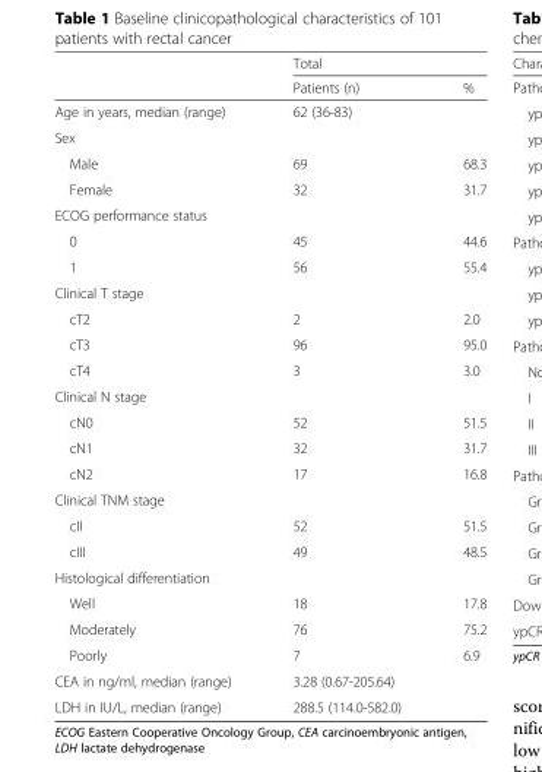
<table><thead><tr><td rowspan="2"></td><td colspan="2">Total</td></tr><tr><td>Patients (n)</td><td>%</td></tr></thead><tbody><tr><td>Age in years, median (range)</td><td>62 (36-83)</td><td></td></tr><tr><td colspan="3">Sex</td></tr><tr><td>Male</td><td>69</td><td>68.3</td></tr><tr><td>Female</td><td>32</td><td>31.7</td></tr><tr><td colspan="3">ECOG performance status</td></tr><tr><td>0</td><td>45</td><td>44.6</td></tr><tr><td>1</td><td>56</td><td>55.4</td></tr><tr><td colspan="3">Clinical T stage</td></tr><tr><td>cT2</td><td>2</td><td>2.0</td></tr><tr><td>cT3</td><td>96</td><td>95.0</td></tr><tr><td>cT4</td><td>3</td><td>3.0</td></tr><tr><td colspan="3">Clinical N stage</td></tr><tr><td>cN0</td><td>52</td><td>51.5</td></tr><tr><td>cN1</td><td>32</td><td>31.7</td></tr><tr><td>cN2</td><td>17</td><td>16.8</td></tr><tr><td colspan="3">Clinical TNM stage</td></tr><tr><td>cII</td><td>52</td><td>51.5</td></tr><tr><td>cIII</td><td>49</td><td>48.5</td></tr><tr><td colspan="3">Histological differentiation</td></tr><tr><td>Well</td><td>18</td><td>17.8</td></tr><tr><td>Moderately</td><td>76</td><td>75.2</td></tr><tr><td>Poorly</td><td>7</td><td>6.9</td></tr><tr><td>CEA in ng/ml, median (range)</td><td>3.28 (0.67-205.64)</td><td></td></tr><tr><td>LDH in IU/L, median (range)</td><td>288.5 (114.0-582.0)</td><td></td></tr></tbody></table>